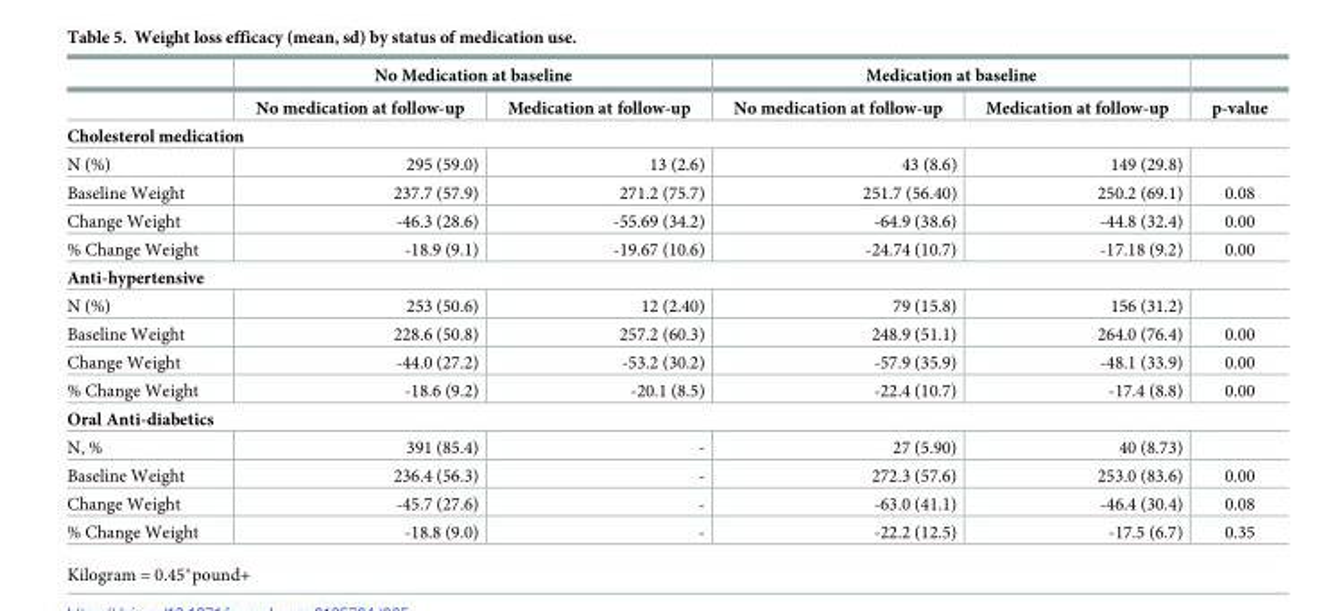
<table><thead><tr><td rowspan="2"></td><td colspan="2">No Medication at baseline</td><td colspan="2">Medication at baseline</td><td rowspan="2">p-value</td></tr><tr><td>No medication at follow-up</td><td>Medication at follow-up</td><td>No medication at follow-up</td><td>Medication at follow-up</td></tr></thead><tbody><tr><td colspan="6">Cholesterol medication</td></tr><tr><td>N (%)</td><td>295 (59.0)</td><td>13 (2.6)</td><td>43 (8.6)</td><td>149 (29.8)</td><td></td></tr><tr><td>Baseline Weight</td><td>237.7 (57.9)</td><td>271.2 (75.7)</td><td>251.7 (56.40)</td><td>250.2 (69.1)</td><td>0.08</td></tr><tr><td>Change Weight</td><td>-46.3 (28.6)</td><td>-55.69 (34.2)</td><td>-64.9 (38.6)</td><td>-44.8 (32.4)</td><td>0.00</td></tr><tr><td>% Change Weight</td><td>-18.9 (9.1)</td><td>-19.67 (10.6)</td><td>-24.74 (10.7)</td><td>-17.18 (9.2)</td><td>0.00</td></tr><tr><td colspan="6">Anti-hypertensive</td></tr><tr><td>N (%)</td><td>253 (50.6)</td><td>12 (2.40)</td><td>79 (15.8)</td><td>156 (31.2)</td><td></td></tr><tr><td>Baseline Weight</td><td>228.6 (50.8)</td><td>257.2 (60.3)</td><td>248.9 (51.1)</td><td>264.0 (76.4)</td><td>0.00</td></tr><tr><td>Change Weight</td><td>-44.0 (27.2)</td><td>-53.2 (30.2)</td><td>-57.9 (35.9)</td><td>-48.1 (33.9)</td><td>0.00</td></tr><tr><td>% Change Weight</td><td>-18.6 (9.2)</td><td>-20.1 (8.5)</td><td>-22.4 (10.7)</td><td>-17.4 (8.8)</td><td>0.00</td></tr><tr><td colspan="6">Oral Anti-diabetics</td></tr><tr><td>N, %</td><td>391 (85.4)</td><td>-</td><td>27 (5.90)</td><td>40 (8.73)</td><td></td></tr><tr><td>Baseline Weight</td><td>236.4 (56.3)</td><td>-</td><td>272.3 (57.6)</td><td>253.0 (83.6)</td><td>0.00</td></tr><tr><td>Change Weight</td><td>-45.7 (27.6)</td><td>-</td><td>-63.0 (41.1)</td><td>-46.4 (30.4)</td><td>0.08</td></tr><tr><td>% Change Weight</td><td>-18.8 (9.0)</td><td>-</td><td>-22.2 (12.5)</td><td>-17.5 (6.7)</td><td>0.35</td></tr></tbody></table>